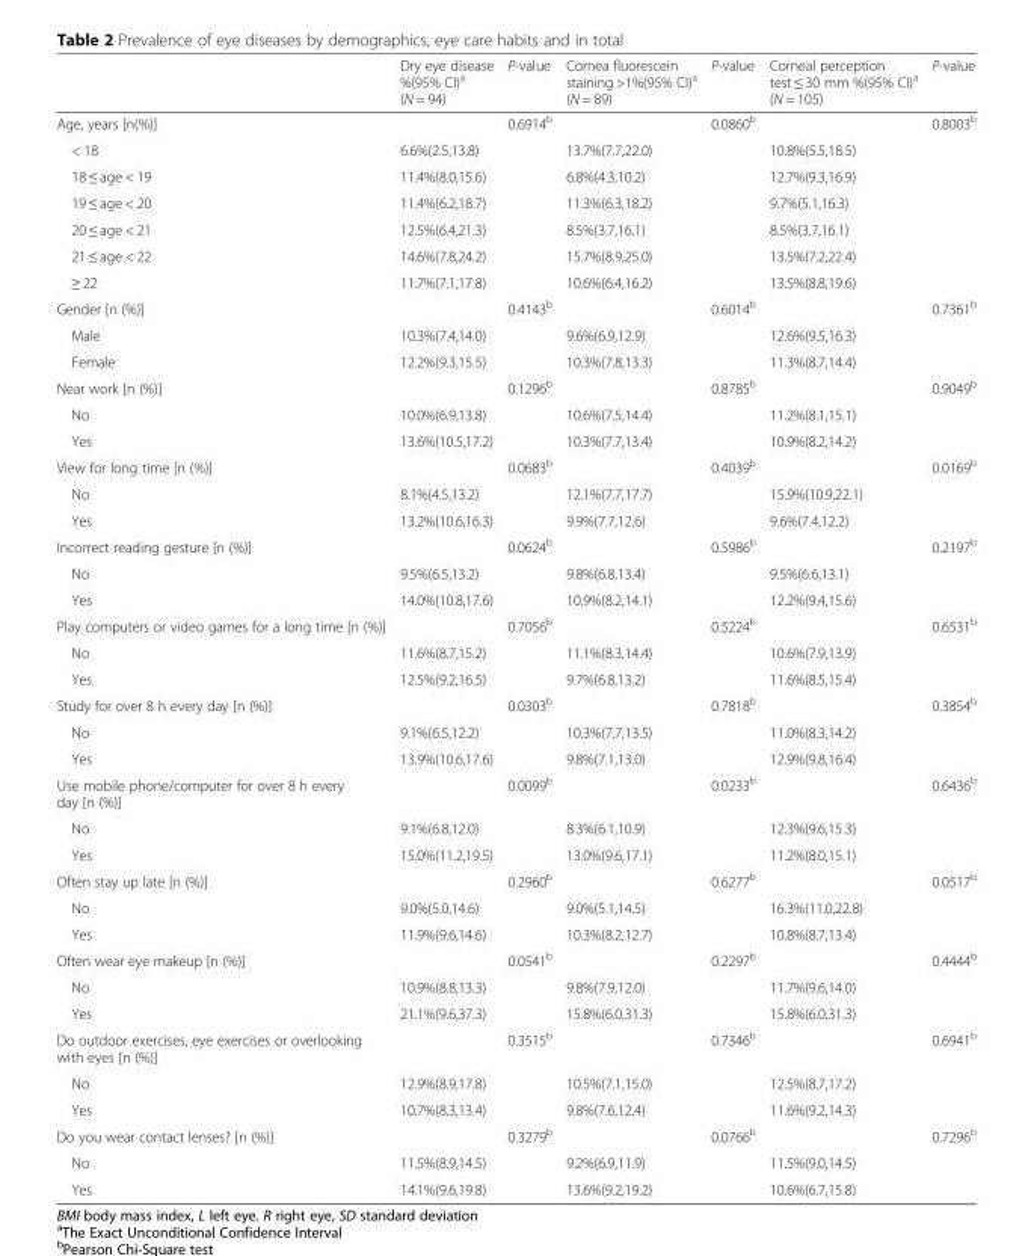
<table><thead><tr><td></td><td>Dry eye disease %(95% CI)<sup>a</sup> (N = 94)</td><td>P-value</td><td>Cornea fluorescein staining &gt;1%(95% CI)<sup>a</sup> (N = 89)</td><td>P-value</td><td>Corneal perception test ≤ 30 mm %(95% CI)<sup>a</sup> (N = 105)</td><td>P-value</td></tr></thead><tbody><tr><td>Age, years [n(%)]</td><td></td><td>0.6914<sup>b</sup></td><td></td><td>0.0860<sup>b</sup></td><td></td><td>0.8003<sup>b</sup></td></tr><tr><td>&lt; 18</td><td>6.6%(2.5,13.8)</td><td></td><td>13.7%(7.7,22.0)</td><td></td><td>10.8%(5.5,18.5)</td><td></td></tr><tr><td>18 ≤ age &lt; 19</td><td>11.4%(8.0,15.6)</td><td></td><td>6.8%(4.3,10.2)</td><td></td><td>12.7%(9.3,16.9)</td><td></td></tr><tr><td>19 ≤ age &lt; 20</td><td>11.4%(6.2,18.7)</td><td></td><td>11.3%(6.3,18.2)</td><td></td><td>9.7%(5.1,16.3)</td><td></td></tr><tr><td>20 ≤ age &lt; 21</td><td>12.5%(6.4,21.3)</td><td></td><td>8.5%(3.7,16.1)</td><td></td><td>8.5%(3.7,16.1)</td><td></td></tr><tr><td>21 ≤ age &lt; 22</td><td>14.6%(7.8,24.2)</td><td></td><td>15.7%(8.9,25.0)</td><td></td><td>13.5%(7.2,22.4)</td><td></td></tr><tr><td>≥ 22</td><td>11.7%(7.1,17.8)</td><td></td><td>10.6%(6.4,16.2)</td><td></td><td>13.5%(8.8,19.6)</td><td></td></tr><tr><td>Gender [n (%)]</td><td></td><td>0.4143<sup>b</sup></td><td></td><td>0.6014<sup>b</sup></td><td></td><td>0.7361<sup>b</sup></td></tr><tr><td>Male</td><td>10.3%(7.4,14.0)</td><td></td><td>9.6%(6.9,12.9)</td><td></td><td>12.6%(9.5,16.3)</td><td></td></tr><tr><td>Female</td><td>12.2%(9.3,15.5)</td><td></td><td>10.3%(7.8,13.3)</td><td></td><td>11.3%(8.7,14.4)</td><td></td></tr><tr><td>Near work [n (%)]</td><td></td><td>0.1296<sup>b</sup></td><td></td><td>0.8785<sup>b</sup></td><td></td><td>0.9049<sup>b</sup></td></tr><tr><td>No</td><td>10.0%(6.9,13.8)</td><td></td><td>10.6%(7.5,14.4)</td><td></td><td>11.2%(8.1,15.1)</td><td></td></tr><tr><td>Yes</td><td>13.6%(10.5,17.2)</td><td></td><td>10.3%(7.7,13.4)</td><td></td><td>10.9%(8.2,14.2)</td><td></td></tr><tr><td>View for long time [n (%)]</td><td></td><td>0.0683<sup>b</sup></td><td></td><td>0.4039<sup>b</sup></td><td></td><td>0.0169<sup>b</sup></td></tr><tr><td>No</td><td>8.1%(4.5,13.2)</td><td></td><td>12.1%(7.7,17.7)</td><td></td><td>15.9%(10.9,22.1)</td><td></td></tr><tr><td>Yes</td><td>13.2%(10.6,16.3)</td><td></td><td>9.9%(7.7,12.6)</td><td></td><td>9.6%(7.4,12.2)</td><td></td></tr><tr><td>Incorrect reading gesture [n (%)]</td><td></td><td>0.0624<sup>b</sup></td><td></td><td>0.5986<sup>b</sup></td><td></td><td>0.2197<sup>b</sup></td></tr><tr><td>No</td><td>9.5%(6.5,13.2)</td><td></td><td>9.8%(6.8,13.4)</td><td></td><td>9.5%(6.6,13.1)</td><td></td></tr><tr><td>Yes</td><td>14.0%(10.8,17.6)</td><td></td><td>10.9%(8.2,14.1)</td><td></td><td>12.2%(9.4,15.6)</td><td></td></tr><tr><td>Play computers or video games for a long time [n (%)]</td><td></td><td>0.7056<sup>b</sup></td><td></td><td>0.5224<sup>b</sup></td><td></td><td>0.6531<sup>b</sup></td></tr><tr><td>No</td><td>11.6%(8.7,15.2)</td><td></td><td>11.1%(8.3,14.4)</td><td></td><td>10.6%(7.9,13.9)</td><td></td></tr><tr><td>Yes</td><td>12.5%(9.2,16.5)</td><td></td><td>9.7%(6.8,13.2)</td><td></td><td>11.6%(8.5,15.4)</td><td></td></tr><tr><td>Study for over 8 h every day [n (%)]</td><td></td><td>0.0303<sup>b</sup></td><td></td><td>0.7818<sup>b</sup></td><td></td><td>0.3854<sup>b</sup></td></tr><tr><td>No</td><td>9.1%(6.5,12.2)</td><td></td><td>10.3%(7.7,13.5)</td><td></td><td>11.0%(8.3,14.2)</td><td></td></tr><tr><td>Yes</td><td>13.9%(10.6,17.6)</td><td></td><td>9.8%(7.1,13.0)</td><td></td><td>12.9%(9.8,16.4)</td><td></td></tr><tr><td>Use mobile phone/computer for over 8 h every day [n (%)]</td><td></td><td>0.0099<sup>b</sup></td><td></td><td>0.0233<sup>b</sup></td><td></td><td>0.6436<sup>b</sup></td></tr><tr><td>No</td><td>9.1%(6.8,12.0)</td><td></td><td>8.3%(6.1,10.9)</td><td></td><td>12.3%(9.6,15.3)</td><td></td></tr><tr><td>Yes</td><td>15.0%(11.2,19.5)</td><td></td><td>13.0%(9.6,17.1)</td><td></td><td>11.2%(8.0,15.1)</td><td></td></tr><tr><td>Often stay up late [n (%)]</td><td></td><td>0.2960<sup>b</sup></td><td></td><td>0.6277<sup>b</sup></td><td></td><td>0.0517<sup>b</sup></td></tr><tr><td>No</td><td>9.0%(5.0,14.6)</td><td></td><td>9.0%(5.1,14.5)</td><td></td><td>16.3%(11.0,22.8)</td><td></td></tr><tr><td>Yes</td><td>11.9%(9.6,14.6)</td><td></td><td>10.3%(8.2,12.7)</td><td></td><td>10.8%(8.7,13.4)</td><td></td></tr><tr><td>Often wear eye makeup [n (%)]</td><td></td><td>0.0541<sup>b</sup></td><td></td><td>0.2297<sup>b</sup></td><td></td><td>0.4444<sup>b</sup></td></tr><tr><td>No</td><td>10.9%(8.8,13.3)</td><td></td><td>9.8%(7.9,12.0)</td><td></td><td>11.7%(9.6,14.0)</td><td></td></tr><tr><td>Yes</td><td>21.1%(9.6,37.3)</td><td></td><td>15.8%(6.0,31.3)</td><td></td><td>15.8%(6.0,31.3)</td><td></td></tr><tr><td>Do outdoor exercises, eye exercises or overlooking with eyes [n (%)]</td><td></td><td>0.3515<sup>b</sup></td><td></td><td>0.7346<sup>b</sup></td><td></td><td>0.6941<sup>b</sup></td></tr><tr><td>No</td><td>12.9%(8.9,17.8)</td><td></td><td>10.5%(7.1,15.0)</td><td></td><td>12.5%(8.7,17.2)</td><td></td></tr><tr><td>Yes</td><td>10.7%(8.3,13.4)</td><td></td><td>9.8%(7.6,12.4)</td><td></td><td>11.6%(9.2,14.3)</td><td></td></tr><tr><td>Do you wear contact lenses? [n (%)]</td><td></td><td>0.3279<sup>b</sup></td><td></td><td>0.0766<sup>b</sup></td><td></td><td>0.7296<sup>b</sup></td></tr><tr><td>No</td><td>11.5%(8.9,14.5)</td><td></td><td>9.2%(6.9,11.9)</td><td></td><td>11.5%(9.0,14.5)</td><td></td></tr><tr><td>Yes</td><td>14.1%(9.6,19.8)</td><td></td><td>13.6%(9.2,19.2)</td><td></td><td>10.6%(6.7,15.8)</td><td></td></tr></tbody></table>